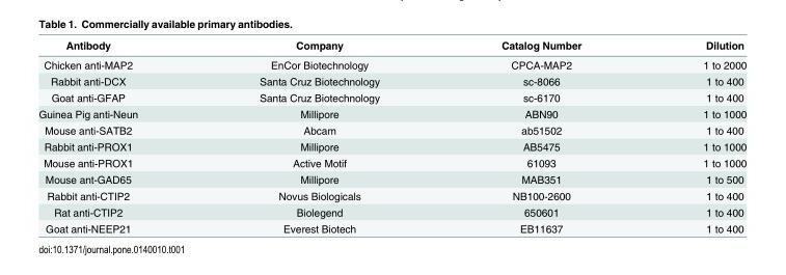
<table><thead><tr><td>Antibody</td><td>Company</td><td>Catalog Number</td><td>Dilution</td></tr></thead><tbody><tr><td>Chicken anti-MAP2</td><td>EnCor Biotechnology</td><td>CPCA-MAP2</td><td>1 to 2000</td></tr><tr><td>Rabbit anti-DCX</td><td>Santa Cruz Biotechnology</td><td>sc-8066</td><td>1 to 400</td></tr><tr><td>Goat anti-GFAP</td><td>Santa Cruz Biotechnology</td><td>sc-6170</td><td>1 to 400</td></tr><tr><td>Guinea Pig anti-Neun</td><td>Millipore</td><td>ABN90</td><td>1 to 1000</td></tr><tr><td>Mouse anti-SATB2</td><td>Abcam</td><td>ab51502</td><td>1 to 400</td></tr><tr><td>Rabbit anti-PROX1</td><td>Millipore</td><td>AB5475</td><td>1 to 1000</td></tr><tr><td>Mouse anti-PROX1</td><td>Active Motif</td><td>61093</td><td>1 to 1000</td></tr><tr><td>Mouse ant-GAD65</td><td>Millipore</td><td>MAB351</td><td>1 to 500</td></tr><tr><td>Rabbit anti-CTIP2</td><td>Novus Biologicals</td><td>NB100-2600</td><td>1 to 400</td></tr><tr><td>Rat anti-CTIP2</td><td>Biolegend</td><td>650601</td><td>1 to 400</td></tr><tr><td>Goat anti-NEEP21</td><td>Everest Biotech</td><td>EB11637</td><td>1 to 400</td></tr></tbody></table>